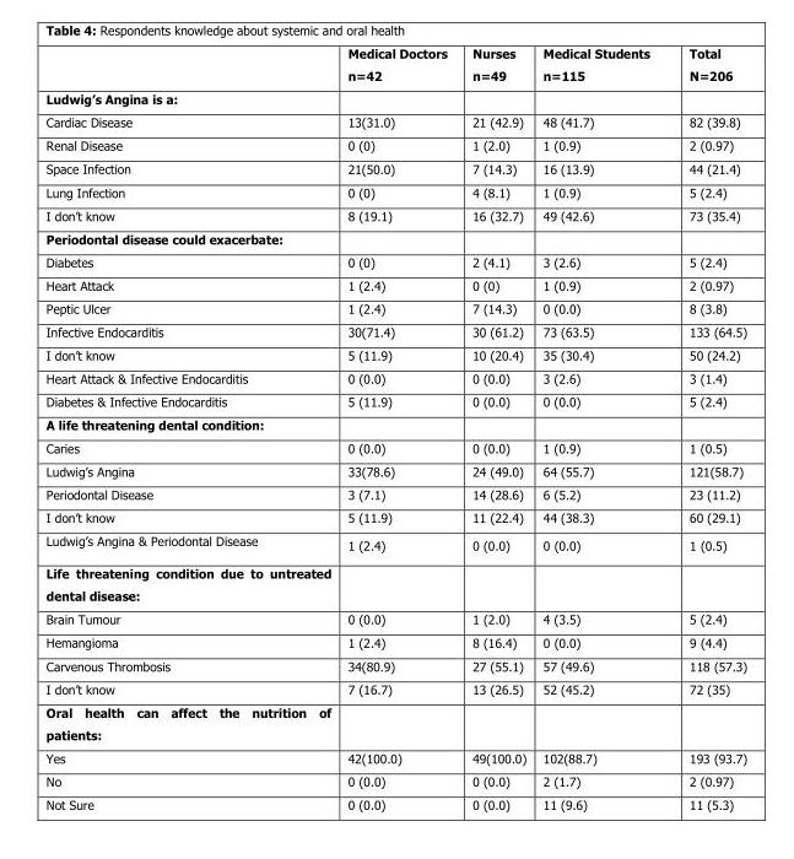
<table><thead><tr><td></td><td>Medical Doctors n=42</td><td>Nurses n=49</td><td>Medical Students n=115</td><td>Total N=206</td></tr></thead><tbody><tr><td colspan="5">Ludwig’s Angina is a:</td></tr><tr><td>Cardiac Disease</td><td>13(31.0)</td><td>21 (42.9)</td><td>48 (41.7)</td><td>82 (39.8)</td></tr><tr><td>Renal Disease</td><td>0 (0)</td><td>1 (2.0)</td><td>1 (0.9)</td><td>2 (0.97)</td></tr><tr><td>Space Infection</td><td>21(50.0)</td><td>7 (14.3)</td><td>16 (13.9)</td><td>44 (21.4)</td></tr><tr><td>Lung Infection</td><td>0 (0)</td><td>4 (8.1)</td><td>1 (0.9)</td><td>5 (2.4)</td></tr><tr><td>I don’t know</td><td>8 (19.1)</td><td>16 (32.7)</td><td>49 (42.6)</td><td>73 (35.4)</td></tr><tr><td colspan="5">Periodontal disease could exacerbate:</td></tr><tr><td>Diabetes</td><td>0 (0)</td><td>2 (4.1)</td><td>3 (2.6)</td><td>5 (2.4)</td></tr><tr><td>Heart Attack</td><td>1 (2.4)</td><td>0 (0)</td><td>1 (0.9)</td><td>2 (0.97)</td></tr><tr><td>Peptic Ulcer</td><td>1 (2.4)</td><td>7 (14.3)</td><td>0 (0.0)</td><td>8 (3.8)</td></tr><tr><td>Infective Endocarditis</td><td>30(71.4)</td><td>30 (61.2)</td><td>73 (63.5)</td><td>133 (64.5)</td></tr><tr><td>I don’t know</td><td>5 (11.9)</td><td>10 (20.4)</td><td>35 (30.4)</td><td>50 (24.2)</td></tr><tr><td>Heart Attack &amp; Infective Endocarditis</td><td>0 (0.0)</td><td>0 (0.0)</td><td>3 (2.6)</td><td>3 (1.4)</td></tr><tr><td>Diabetes &amp; Infective Endocarditis</td><td>5 (11.9)</td><td>0 (0.0)</td><td>0 (0.0)</td><td>5 (2.4)</td></tr><tr><td colspan="5">A life threatening dental condition:</td></tr><tr><td>Caries</td><td>0 (0.0)</td><td>0 (0.0)</td><td>1 (0.9)</td><td>1 (0.5)</td></tr><tr><td>Ludwig’s Angina</td><td>33(78.6)</td><td>24 (49.0)</td><td>64 (55.7)</td><td>121(58.7)</td></tr><tr><td>Periodontal Disease</td><td>3 (7.1)</td><td>14 (28.6)</td><td>6 (5.2)</td><td>23 (11.2)</td></tr><tr><td>I don’t know</td><td>5 (11.9)</td><td>11 (22.4)</td><td>44 (38.3)</td><td>60 (29.1)</td></tr><tr><td>Ludwig’s Angina &amp; Periodontal Disease</td><td>1 (2.4)</td><td>0 (0.0)</td><td>0 (0.0)</td><td>1 (0.5)</td></tr><tr><td colspan="5">Life threatening condition due to untreated dental disease:</td></tr><tr><td>Brain Tumour</td><td>0 (0.0)</td><td>1 (2.0)</td><td>4 (3.5)</td><td>5 (2.4)</td></tr><tr><td>Hemangioma</td><td>1 (2.4)</td><td>8 (16.4)</td><td>0 (0.0)</td><td>9 (4.4)</td></tr><tr><td>Carvenous Thrombosis</td><td>34(80.9)</td><td>27 (55.1)</td><td>57 (49.6)</td><td>118 (57.3)</td></tr><tr><td>I don’t know</td><td>7 (16.7)</td><td>13 (26.5)</td><td>52 (45.2)</td><td>72 (35)</td></tr><tr><td colspan="5">Oral health can affect the nutrition of patients:</td></tr><tr><td>Yes</td><td>42(100.0)</td><td>49(100.0)</td><td>102(88.7)</td><td>193 (93.7)</td></tr><tr><td>No</td><td>0 (0.0)</td><td>0 (0.0)</td><td>2 (1.7)</td><td>2 (0.97)</td></tr><tr><td>Not Sure</td><td>0 (0.0)</td><td>0 (0.0)</td><td>11 (9.6)</td><td>11 (5.3)</td></tr></tbody></table>